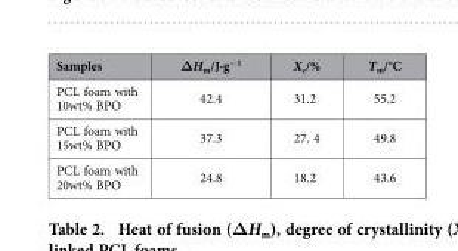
<table><thead><tr><td>Samples</td><td>ΔH<sub>m</sub>/J·g<sup>−1</sup></td><td>X<sub>c</sub>/%</td><td>T<sub>m</sub>/°C</td></tr></thead><tbody><tr><td>PCL foam with 10wt% BPO</td><td>42.4</td><td>31.2</td><td>55.2</td></tr><tr><td>PCL foam with 15wt% BPO</td><td>37.3</td><td>27. 4</td><td>49.8</td></tr><tr><td>PCL foam with 20wt% BPO</td><td>24.8</td><td>18.2</td><td>43.6</td></tr></tbody></table>